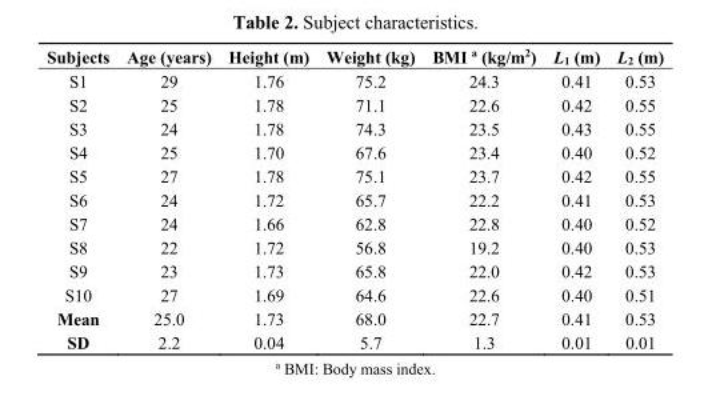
<table><thead><tr><td>Subjects</td><td>Age (years)</td><td>Height (m)</td><td>Weight (kg)</td><td>BMI <sup>a</sup> (kg/m<sup>2</sup>)</td><td>L<sub>1</sub> (m)</td><td>L<sub>2</sub> (m)</td></tr></thead><tbody><tr><td>S1</td><td>29</td><td>1.76</td><td>75.2</td><td>24.3</td><td>0.41</td><td>0.53</td></tr><tr><td>S2</td><td>25</td><td>1.78</td><td>71.1</td><td>22.6</td><td>0.42</td><td>0.55</td></tr><tr><td>S3</td><td>24</td><td>1.78</td><td>74.3</td><td>23.5</td><td>0.43</td><td>0.55</td></tr><tr><td>S4</td><td>25</td><td>1.70</td><td>67.6</td><td>23.4</td><td>0.40</td><td>0.52</td></tr><tr><td>S5</td><td>27</td><td>1.78</td><td>75.1</td><td>23.7</td><td>0.42</td><td>0.55</td></tr><tr><td>S6</td><td>24</td><td>1.72</td><td>65.7</td><td>22.2</td><td>0.41</td><td>0.53</td></tr><tr><td>S7</td><td>24</td><td>1.66</td><td>62.8</td><td>22.8</td><td>0.40</td><td>0.52</td></tr><tr><td>S8</td><td>22</td><td>1.72</td><td>56.8</td><td>19.2</td><td>0.40</td><td>0.53</td></tr><tr><td>S9</td><td>23</td><td>1.73</td><td>65.8</td><td>22.0</td><td>0.42</td><td>0.53</td></tr><tr><td>S10</td><td>27</td><td>1.69</td><td>64.6</td><td>22.6</td><td>0.40</td><td>0.51</td></tr><tr><td>Mean</td><td>25.0</td><td>1.73</td><td>68.0</td><td>22.7</td><td>0.41</td><td>0.53</td></tr><tr><td>SD</td><td>2.2</td><td>0.04</td><td>5.7</td><td>1.3</td><td>0.01</td><td>0.01</td></tr></tbody></table>